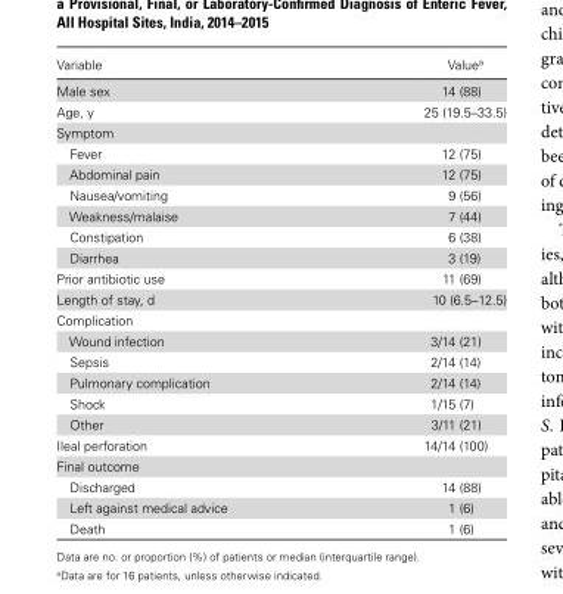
<table><thead><tr><td>Variable</td><td>Value<sup>a</sup></td></tr></thead><tbody><tr><td>Male sex</td><td>14 (88)</td></tr><tr><td>Age, y</td><td>25 (19.5–33.5)</td></tr><tr><td colspan="2">Symptom</td></tr><tr><td>Fever</td><td>12 (75)</td></tr><tr><td>Abdominal pain</td><td>12 (75)</td></tr><tr><td>Nausea/vomiting</td><td>9 (56)</td></tr><tr><td>Weakness/malaise</td><td>7 (44)</td></tr><tr><td>Constipation</td><td>6 (38)</td></tr><tr><td>Diarrhea</td><td>3 (19)</td></tr><tr><td>Prior antibiotic use</td><td>11 (69)</td></tr><tr><td>Length of stay, d</td><td>10 (6.5–12.5)</td></tr><tr><td colspan="2">Complication</td></tr><tr><td>Wound infection</td><td>3/14 (21)</td></tr><tr><td>Sepsis</td><td>2/14 (14)</td></tr><tr><td>Pulmonary complication</td><td>2/14 (14)</td></tr><tr><td>Shock</td><td>1/15 (7)</td></tr><tr><td>Other</td><td>3/11 (21)</td></tr><tr><td>Ileal perforation</td><td>14/14 (100)</td></tr><tr><td colspan="2">Final outcome</td></tr><tr><td>Discharged</td><td>14 (88)</td></tr><tr><td>Left against medical advice</td><td>1 (6)</td></tr><tr><td>Death</td><td>1 (6)</td></tr></tbody></table>